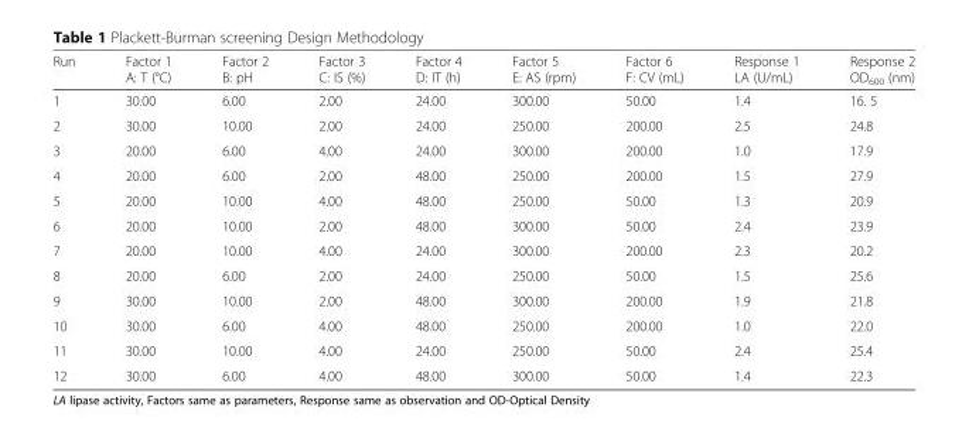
<table><thead><tr><td>Run</td><td>Factor 1 A: T (°C)</td><td>Factor 2 B: pH</td><td>Factor 3 C: IS (%)</td><td>Factor 4 D: IT (h)</td><td>Factor 5 E: AS (rpm)</td><td>Factor 6 F: CV (mL)</td><td>Response 1 LA (U/mL)</td><td>Response 2 OD<sub>600</sub> (nm)</td></tr></thead><tbody><tr><td>1</td><td>30.00</td><td>6.00</td><td>2.00</td><td>24.00</td><td>300.00</td><td>50.00</td><td>1.4</td><td>16. 5</td></tr><tr><td>2</td><td>30.00</td><td>10.00</td><td>2.00</td><td>24.00</td><td>250.00</td><td>200.00</td><td>2.5</td><td>24.8</td></tr><tr><td>3</td><td>20.00</td><td>6.00</td><td>4.00</td><td>24.00</td><td>300.00</td><td>200.00</td><td>1.0</td><td>17.9</td></tr><tr><td>4</td><td>20.00</td><td>6.00</td><td>2.00</td><td>48.00</td><td>250.00</td><td>200.00</td><td>1.5</td><td>27.9</td></tr><tr><td>5</td><td>20.00</td><td>10.00</td><td>4.00</td><td>48.00</td><td>250.00</td><td>50.00</td><td>1.3</td><td>20.9</td></tr><tr><td>6</td><td>20.00</td><td>10.00</td><td>2.00</td><td>48.00</td><td>300.00</td><td>50.00</td><td>2.4</td><td>23.9</td></tr><tr><td>7</td><td>20.00</td><td>10.00</td><td>4.00</td><td>24.00</td><td>300.00</td><td>200.00</td><td>2.3</td><td>20.2</td></tr><tr><td>8</td><td>20.00</td><td>6.00</td><td>2.00</td><td>24.00</td><td>250.00</td><td>50.00</td><td>1.5</td><td>25.6</td></tr><tr><td>9</td><td>30.00</td><td>10.00</td><td>2.00</td><td>48.00</td><td>300.00</td><td>200.00</td><td>1.9</td><td>21.8</td></tr><tr><td>10</td><td>30.00</td><td>6.00</td><td>4.00</td><td>48.00</td><td>250.00</td><td>200.00</td><td>1.0</td><td>22.0</td></tr><tr><td>11</td><td>30.00</td><td>10.00</td><td>4.00</td><td>24.00</td><td>250.00</td><td>50.00</td><td>2.4</td><td>25.4</td></tr><tr><td>12</td><td>30.00</td><td>6.00</td><td>4.00</td><td>48.00</td><td>300.00</td><td>50.00</td><td>1.4</td><td>22.3</td></tr></tbody></table>